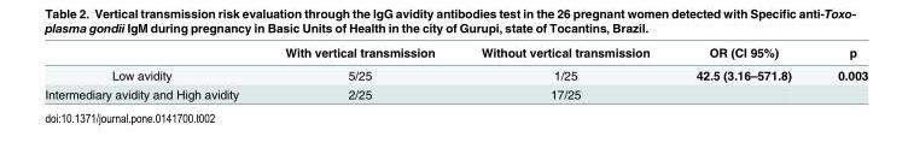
<table><thead><tr><td></td><td>With vertical transmission</td><td>Without vertical transmission</td><td>OR (CI 95%)</td><td>p</td></tr></thead><tbody><tr><td>Low avidity</td><td>5/25</td><td>1/25</td><td>42.5 (3.16–571.8)</td><td>0.003</td></tr><tr><td>Intermediary avidity and High avidity</td><td>2/25</td><td>17/25</td><td></td><td></td></tr></tbody></table>